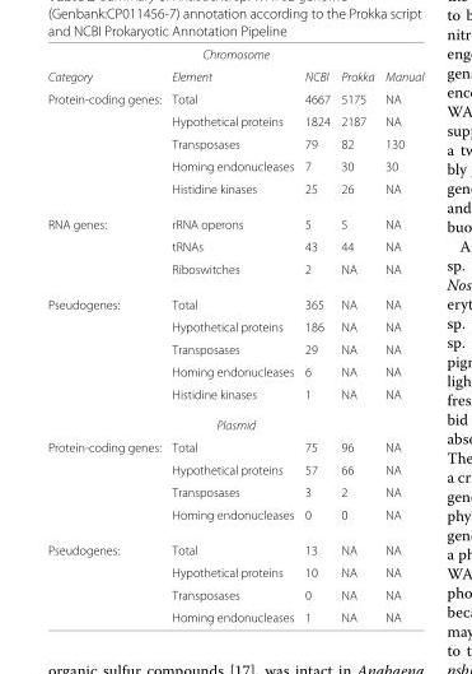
<table><tbody><tr><td colspan="5">Chromosome</td></tr><tr><td>Category</td><td>Element</td><td>NCBI</td><td>Prokka</td><td>Manual</td></tr><tr><td rowspan="5">Protein-coding genes:</td><td>Total</td><td>4667</td><td>5175</td><td>NA</td></tr><tr><td>Hypothetical proteins</td><td>1824</td><td>2187</td><td>NA</td></tr><tr><td>Transposases</td><td>79</td><td>82</td><td>130</td></tr><tr><td>Homing endonucleases</td><td>7</td><td>30</td><td>30</td></tr><tr><td>Histidine kinases</td><td>25</td><td>26</td><td>NA</td></tr><tr><td rowspan="3">RNA genes:</td><td>rRNA operons</td><td>5</td><td>5</td><td>NA</td></tr><tr><td>tRNAs</td><td>43</td><td>44</td><td>NA</td></tr><tr><td>Riboswitches</td><td>2</td><td>NA</td><td>NA</td></tr><tr><td rowspan="5">Pseudogenes:</td><td>Total</td><td>365</td><td>NA</td><td>NA</td></tr><tr><td>Hypothetical proteins</td><td>186</td><td>NA</td><td>NA</td></tr><tr><td>Transposases</td><td>29</td><td>NA</td><td>NA</td></tr><tr><td>Homing endonucleases</td><td>6</td><td>NA</td><td>NA</td></tr><tr><td>Histidine kinases</td><td>1</td><td>NA</td><td>NA</td></tr><tr><td colspan="5">Plasmid</td></tr><tr><td rowspan="4">Protein-coding genes:</td><td>Total</td><td>75</td><td>96</td><td>NA</td></tr><tr><td>Hypothetical proteins</td><td>57</td><td>66</td><td>NA</td></tr><tr><td>Transposases</td><td>3</td><td>2</td><td>NA</td></tr><tr><td>Homing endonucleases</td><td>0</td><td>0</td><td>NA</td></tr><tr><td rowspan="4">Pseudogenes:</td><td>Total</td><td>13</td><td>NA</td><td>NA</td></tr><tr><td>Hypothetical proteins</td><td>10</td><td>NA</td><td>NA</td></tr><tr><td>Transposases</td><td>0</td><td>NA</td><td>NA</td></tr><tr><td>Homing endonucleases</td><td>1</td><td>NA</td><td>NA</td></tr></tbody></table>